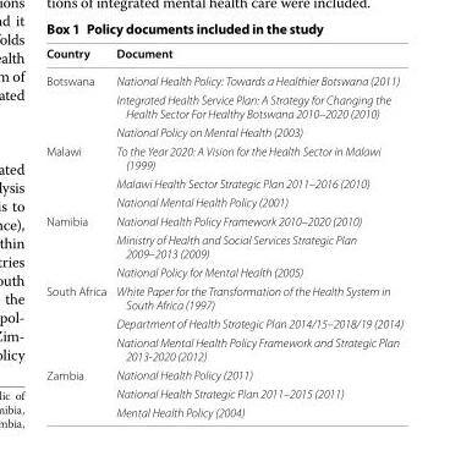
<table><thead><tr><td>Country</td><td>Document</td></tr></thead><tbody><tr><td rowspan="3">Botswana</td><td>National Health Policy: Towards a Healthier Botswana (2011)</td></tr><tr><td>Integrated Health Service Plan: A Strategy for Changing the Health Sector For Healthy Botswana 2010–2020 (2010)</td></tr><tr><td>National Policy on Mental Health (2003)</td></tr><tr><td rowspan="3">Malawi</td><td>To the Year 2020: A Vision for the Health Sector in Malawi (1999)</td></tr><tr><td>Malawi Health Sector Strategic Plan 2011–2016 (2010)</td></tr><tr><td>National Mental Health Policy (2001)</td></tr><tr><td rowspan="3">Namibia</td><td>National Health Policy Framework 2010–2020 (2010)</td></tr><tr><td>Ministry of Health and Social Services Strategic Plan 2009–2013 (2009)</td></tr><tr><td>National Policy for Mental Health (2005)</td></tr><tr><td rowspan="3">South Africa</td><td>White Paper for the Transformation of the Health System in South Africa (1997)</td></tr><tr><td>Department of Health Strategic Plan 2014/15–2018/19 (2014)</td></tr><tr><td>National Mental Health Policy Framework and Strategic Plan 2013-2020 (2012)</td></tr><tr><td rowspan="3">Zambia</td><td>National Health Policy (2011)</td></tr><tr><td>National Health Strategic Plan 2011–2015 (2011)</td></tr><tr><td>Mental Health Policy (2004)</td></tr></tbody></table>